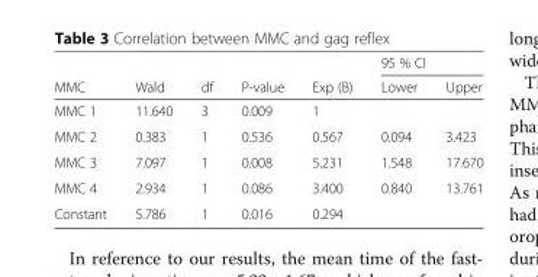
<table><thead><tr><td rowspan="2">MMC</td><td rowspan="2">Wald</td><td rowspan="2">df</td><td rowspan="2">P-value</td><td rowspan="2">Exp (B)</td><td colspan="2">95 % CI</td></tr><tr><td>Lower</td><td>Upper</td></tr></thead><tbody><tr><td>MMC 1</td><td>11.640</td><td>3</td><td>0.009</td><td>1</td><td></td><td></td></tr><tr><td>MMC 2</td><td>0.383</td><td>1</td><td>0.536</td><td>0.567</td><td>0.094</td><td>3.423</td></tr><tr><td>MMC 3</td><td>7.097</td><td>1</td><td>0.008</td><td>5.231</td><td>1.548</td><td>17.670</td></tr><tr><td>MMC 4</td><td>2.934</td><td>1</td><td>0.086</td><td>3.400</td><td>0.840</td><td>13.761</td></tr><tr><td>Constant</td><td>5.786</td><td>1</td><td>0.016</td><td>0.294</td><td></td><td></td></tr></tbody></table>